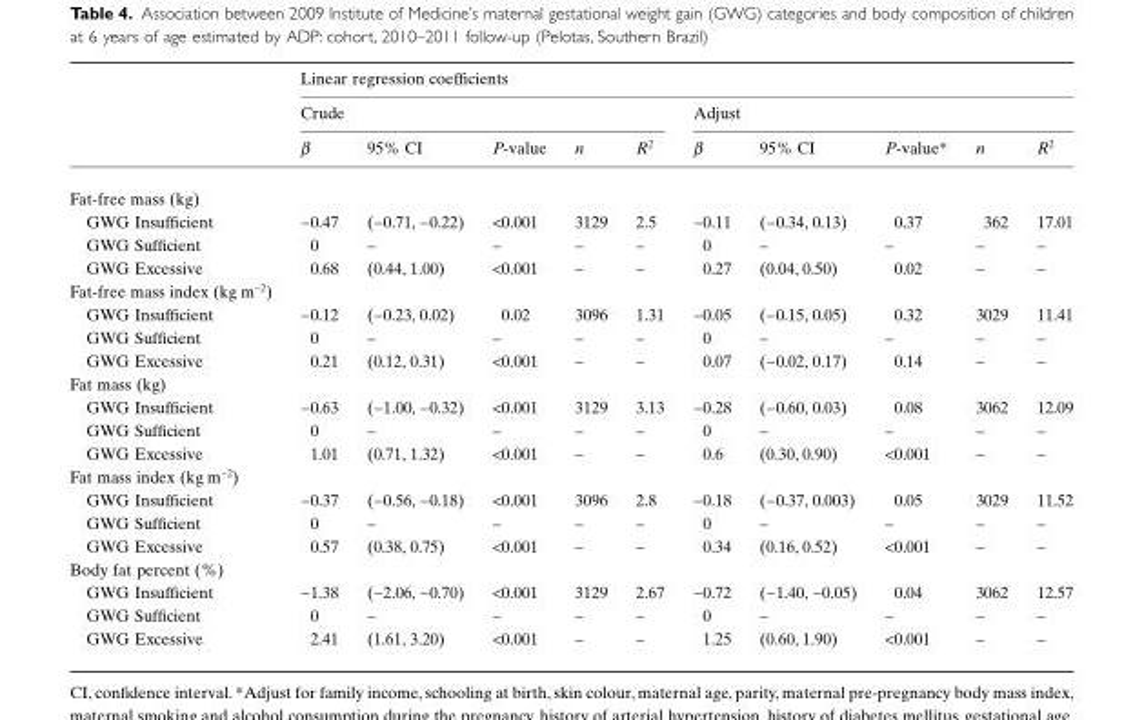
<table><thead><tr><td rowspan="3"></td><td colspan="10">Linear regression coefficients</td></tr><tr><td colspan="5">Crude</td><td colspan="5">Adjust</td></tr><tr><td>β</td><td>95% CI</td><td>P-value</td><td>n</td><td>R<sup>2</sup></td><td>β</td><td>95% CI</td><td>P-value*</td><td>n</td><td>R<sup>2</sup></td></tr></thead><tbody><tr><td colspan="11">Fat-free mass (kg)</td></tr><tr><td>GWG Insufficient</td><td>−0.47</td><td>(−0.71, −0.22)</td><td>&lt;0.001</td><td>3129</td><td>2.5</td><td>−0.11</td><td>(−0.34, 0.13)</td><td>0.37</td><td>362</td><td>17.01</td></tr><tr><td>GWG Sufficient</td><td>0</td><td>–</td><td>–</td><td>–</td><td>–</td><td>0</td><td>–</td><td>–</td><td>–</td><td>–</td></tr><tr><td>GWG Excessive</td><td>0.68</td><td>(0.44, 1.00)</td><td>&lt;0.001</td><td>–</td><td>–</td><td>0.27</td><td>(0.04, 0.50)</td><td>0.02</td><td>–</td><td>–</td></tr><tr><td colspan="11">Fat-free mass index (kg m<sup>−2</sup>)</td></tr><tr><td>GWG Insufficient</td><td>−0.12</td><td>(−0.23, 0.02)</td><td>0.02</td><td>3096</td><td>1.31</td><td>−0.05</td><td>(−0.15, 0.05)</td><td>0.32</td><td>3029</td><td>11.41</td></tr><tr><td>GWG Sufficient</td><td>0</td><td>–</td><td>–</td><td>–</td><td>–</td><td>0</td><td>–</td><td>–</td><td>–</td><td>–</td></tr><tr><td>GWG Excessive</td><td>0.21</td><td>(0.12, 0.31)</td><td>&lt;0.001</td><td>–</td><td>–</td><td>0.07</td><td>(−0.02, 0.17)</td><td>0.14</td><td>–</td><td>–</td></tr><tr><td colspan="11">Fat mass (kg)</td></tr><tr><td>GWG Insufficient</td><td>−0.63</td><td>(−1.00, −0.32)</td><td>&lt;0.001</td><td>3129</td><td>3.13</td><td>−0.28</td><td>(−0.60, 0.03)</td><td>0.08</td><td>3062</td><td>12.09</td></tr><tr><td>GWG Sufficient</td><td>0</td><td>–</td><td>–</td><td>–</td><td>–</td><td>0</td><td>–</td><td>–</td><td>–</td><td>–</td></tr><tr><td>GWG Excessive</td><td>1.01</td><td>(0.71, 1.32)</td><td>&lt;0.001</td><td>–</td><td>–</td><td>0.6</td><td>(0.30, 0.90)</td><td>&lt;0.001</td><td>–</td><td>–</td></tr><tr><td colspan="11">Fat mass index (kg m<sup>−2</sup>)</td></tr><tr><td>GWG Insufficient</td><td>−0.37</td><td>(−0.56, −0.18)</td><td>&lt;0.001</td><td>3096</td><td>2.8</td><td>−0.18</td><td>(−0.37, 0.003)</td><td>0.05</td><td>3029</td><td>11.52</td></tr><tr><td>GWG Sufficient</td><td>0</td><td>–</td><td>–</td><td>–</td><td>–</td><td>0</td><td>–</td><td>–</td><td>–</td><td>–</td></tr><tr><td>GWG Excessive</td><td>0.57</td><td>(0.38, 0.75)</td><td>&lt;0.001</td><td>–</td><td>–</td><td>0.34</td><td>(0.16, 0.52)</td><td>&lt;0.001</td><td>–</td><td>–</td></tr><tr><td colspan="11">Body fat percent (%)</td></tr><tr><td>GWG Insufficient</td><td>−1.38</td><td>(−2.06, −0.70)</td><td>&lt;0.001</td><td>3129</td><td>2.67</td><td>−0.72</td><td>(−1.40, −0.05)</td><td>0.04</td><td>3062</td><td>12.57</td></tr><tr><td>GWG Sufficient</td><td>0</td><td>–</td><td>–</td><td>–</td><td>–</td><td>0</td><td>–</td><td>–</td><td>–</td><td>–</td></tr><tr><td>GWG Excessive</td><td>2.41</td><td>(1.61, 3.20)</td><td>&lt;0.001</td><td>–</td><td>–</td><td>1.25</td><td>(0.60, 1.90)</td><td>&lt;0.001</td><td>–</td><td>–</td></tr></tbody></table>